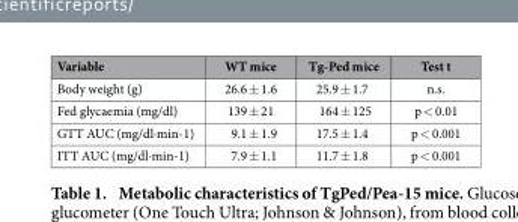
<table><thead><tr><td>Variable</td><td>WT mice</td><td>Tg-Ped mice</td><td>Test t</td></tr></thead><tbody><tr><td>Body weight (g)</td><td>26.6 ± 1.6</td><td>25.9 ± 1.7</td><td>n.s.</td></tr><tr><td>Fed glycaemia (mg/dl)</td><td>139 ± 21</td><td>164 ± 125</td><td>p &lt; 0.01</td></tr><tr><td>GTT AUC (mg/dl·min-1)</td><td>9.1 ± 1.9</td><td>17.5 ± 1.4</td><td>p &lt; 0.001</td></tr><tr><td>ITT AUC (mg/dl·min-1)</td><td>7.9 ± 1.1</td><td>11.7 ± 1.8</td><td>p &lt; 0.001</td></tr></tbody></table>